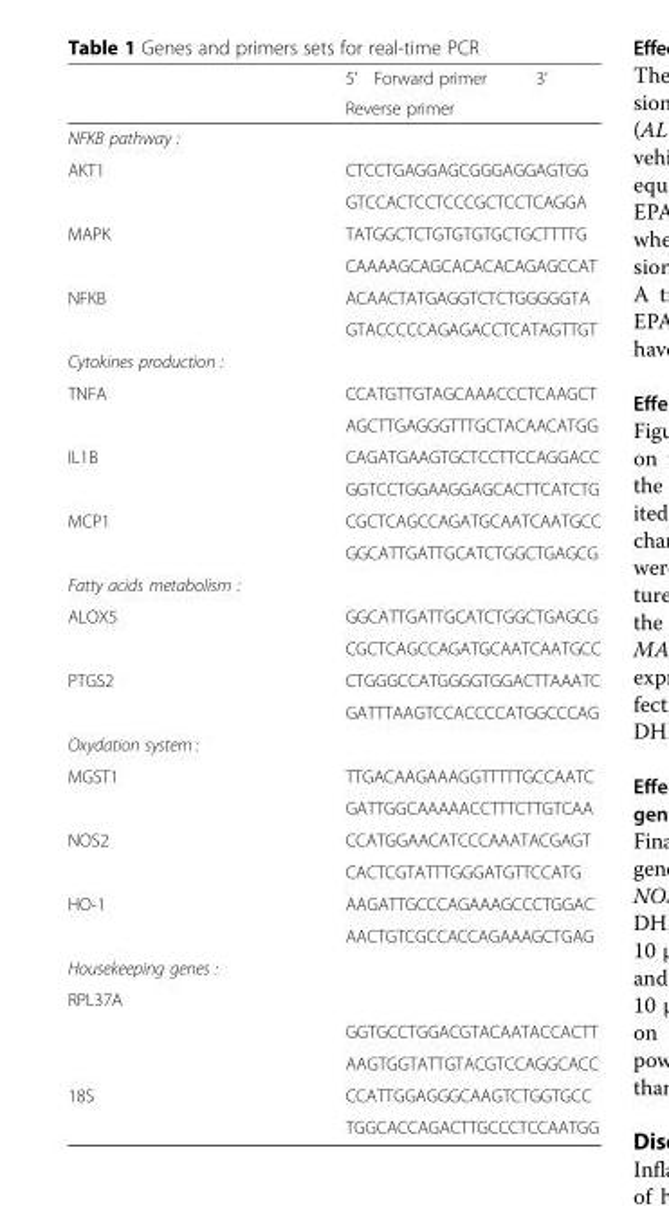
<table><thead><tr><td rowspan="2"></td><td rowspan="2">5’ Forward primer 3’ Reverse primer</td></tr><tr></tr></thead><tbody><tr><td colspan="2">NFKB pathway :</td></tr><tr><td rowspan="2">AKT1</td><td>CTCCTGAGGAGCGGGAGGAGTGG</td></tr><tr><td>GTCCACTCCTCCCGCTCCTCAGGA</td></tr><tr><td rowspan="2">MAPK</td><td>TATGGCTCTGTGTGTGCTGCTTTTG</td></tr><tr><td>CAAAAGCAGCACACACAGAGCCAT</td></tr><tr><td rowspan="2">NFKB</td><td>ACAACTATGAGGTCTCTGGGGGTA</td></tr><tr><td>GTACCCCCAGAGACCTCATAGTTGT</td></tr><tr><td colspan="2">Cytokines production :</td></tr><tr><td rowspan="2">TNFA</td><td>CCATGTTGTAGCAAACCCTCAAGCT</td></tr><tr><td>AGCTTGAGGGTTTGCTACAACATGG</td></tr><tr><td rowspan="2">IL1Β</td><td>CAGATGAAGTGCTCCTTCCAGGACC</td></tr><tr><td>GGTCCTGGAAGGAGCACTTCATCTG</td></tr><tr><td rowspan="2">MCP1</td><td>CGCTCAGCCAGATGCAATCAATGCC</td></tr><tr><td>GGCATTGATTGCATCTGGCTGAGCG</td></tr><tr><td colspan="2">Fatty acids metabolism :</td></tr><tr><td rowspan="2">ALOX5</td><td>GGCATTGATTGCATCTGGCTGAGCG</td></tr><tr><td>CGCTCAGCCAGATGCAATCAATGCC</td></tr><tr><td rowspan="2">PTGS2</td><td>CTGGGCCATGGGGTGGACTTAAATC</td></tr><tr><td>GATTTAAGTCCACCCCATGGCCCAG</td></tr><tr><td colspan="2">Oxydation system :</td></tr><tr><td rowspan="2">MGST1</td><td>TTGACAAGAAAGGTTTTTGCCAATC</td></tr><tr><td>GATTGGCAAAAACCTTTCTTGTCAA</td></tr><tr><td rowspan="2">NOS2</td><td>CCATGGAACATCCCAAATACGAGT</td></tr><tr><td>CACTCGTATTTGGGATGTTCCATG</td></tr><tr><td rowspan="2">HO-1</td><td>AAGATTGCCCAGAAAGCCCTGGAC</td></tr><tr><td>AACTGTCGCCACCAGAAAGCTGAG</td></tr><tr><td colspan="2">Housekeeping genes :</td></tr><tr><td colspan="2">RPL37A</td></tr><tr><td></td><td>GGTGCCTGGACGTACAATACCACTT</td></tr><tr><td></td><td>AAGTGGTATTGTACGTCCAGGCACC</td></tr><tr><td rowspan="2">18S</td><td>CCATTGGAGGGCAAGTCTGGTGCC</td></tr><tr><td>TGGCACCAGACTTGCCCTCCAATGG</td></tr></tbody></table>